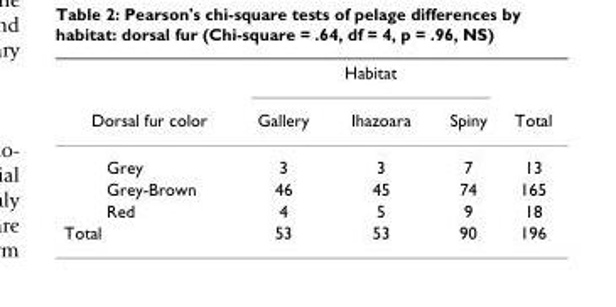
<table><thead><tr><td rowspan="2">Dorsal fur color</td><td colspan="3">Habitat</td><td rowspan="2">Total</td></tr><tr><td>Gallery</td><td>Ihazoara</td><td>Spiny</td></tr></thead><tbody><tr><td>Grey</td><td>3</td><td>3</td><td>7</td><td>13</td></tr><tr><td>Grey-Brown</td><td>46</td><td>45</td><td>74</td><td>165</td></tr><tr><td>Red</td><td>4</td><td>5</td><td>9</td><td>18</td></tr><tr><td>Total</td><td>53</td><td>53</td><td>90</td><td>196</td></tr></tbody></table>